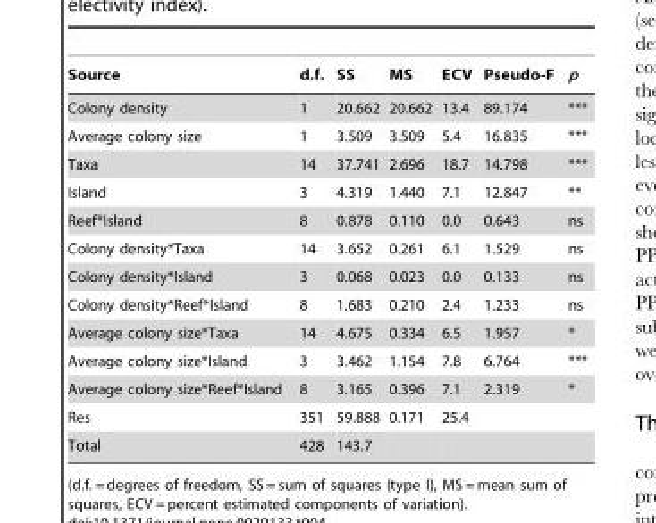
<table><thead><tr><td>Source</td><td>d.f.</td><td>SS</td><td>MS</td><td>ECV</td><td>Pseudo-F</td><td>p</td></tr></thead><tbody><tr><td>Colony density</td><td>1</td><td>20.662</td><td>20.662</td><td>13.4</td><td>89.174</td><td>***</td></tr><tr><td>Average colony size</td><td>1</td><td>3.509</td><td>3.509</td><td>5.4</td><td>16.835</td><td>***</td></tr><tr><td>Taxa</td><td>14</td><td>37.741</td><td>2.696</td><td>18.7</td><td>14.798</td><td>***</td></tr><tr><td>Island</td><td>3</td><td>4.319</td><td>1.440</td><td>7.1</td><td>12.847</td><td>**</td></tr><tr><td>Reef*Island</td><td>8</td><td>0.878</td><td>0.110</td><td>0.0</td><td>0.643</td><td>ns</td></tr><tr><td>Colony density*Taxa</td><td>14</td><td>3.652</td><td>0.261</td><td>6.1</td><td>1.529</td><td>ns</td></tr><tr><td>Colony density*Island</td><td>3</td><td>0.068</td><td>0.023</td><td>0.0</td><td>0.133</td><td>ns</td></tr><tr><td>Colony density*Reef*Island</td><td>8</td><td>1.683</td><td>0.210</td><td>2.4</td><td>1.233</td><td>ns</td></tr><tr><td>Average colony size*Taxa</td><td>14</td><td>4.675</td><td>0.334</td><td>6.5</td><td>1.957</td><td>*</td></tr><tr><td>Average colony size*Island</td><td>3</td><td>3.462</td><td>1.154</td><td>7.8</td><td>6.764</td><td>***</td></tr><tr><td>Average colony size*Reef*Island</td><td>8</td><td>3.165</td><td>0.396</td><td>7.1</td><td>2.319</td><td>*</td></tr><tr><td>Res</td><td>351</td><td>59.888</td><td>0.171</td><td>25.4</td><td></td><td></td></tr><tr><td>Total</td><td>428</td><td>143.7</td><td></td><td></td><td></td><td></td></tr></tbody></table>